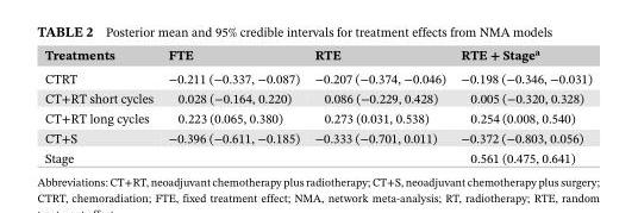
<table><thead><tr><td>Treatments</td><td>FTE</td><td>RTE</td><td>RTE + Stage<sup>a</sup></td></tr></thead><tbody><tr><td>CTRT</td><td>−0.211 (−0.337, −0.087)</td><td>−0.207 (−0.374, −0.046)</td><td>−0.198 (−0.346, −0.031)</td></tr><tr><td>CT+RT short cycles</td><td>0.028 (−0.164, 0.220)</td><td>0.086 (−0.229, 0.428)</td><td>0.005 (−0.320, 0.328)</td></tr><tr><td>CT+RT long cycles</td><td>0.223 (0.065, 0.380)</td><td>0.273 (0.031, 0.538)</td><td>0.254 (0.008, 0.540)</td></tr><tr><td>CT+S</td><td>−0.396 (−0.611, −0.185)</td><td>−0.333 (−0.701, 0.011)</td><td>−0.372 (−0.803, 0.056)</td></tr><tr><td>Stage</td><td></td><td></td><td>0.561 (0.475, 0.641)</td></tr></tbody></table>